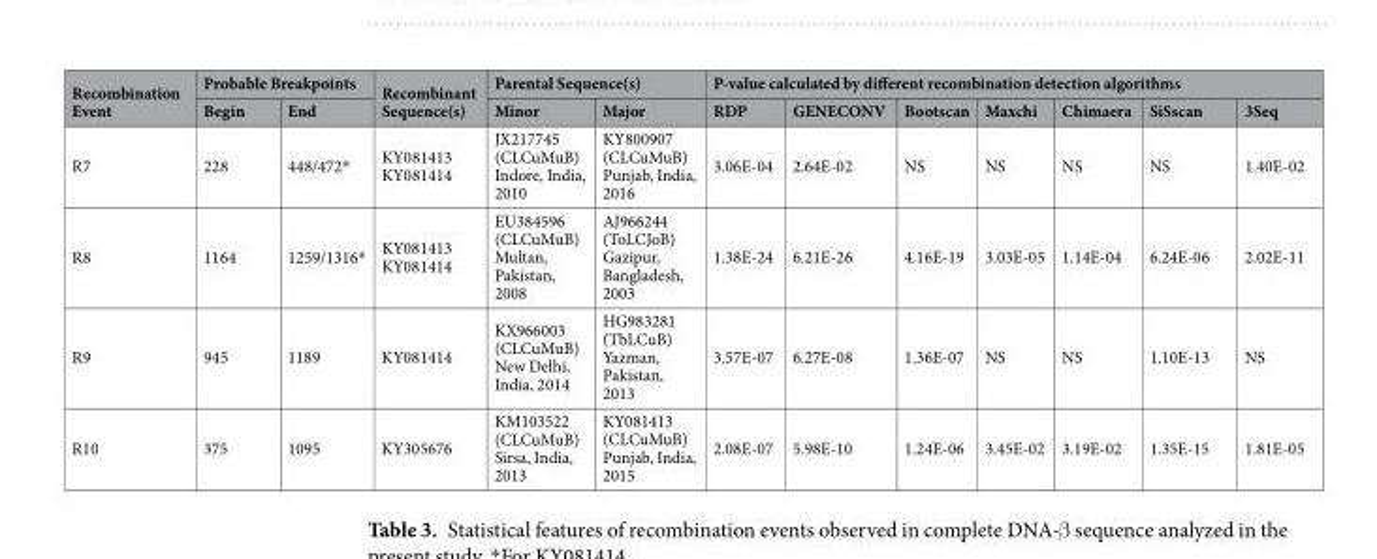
<table><thead><tr><td rowspan="2">Recombination Event</td><td colspan="2">Probable Breakpoints</td><td rowspan="2">Recombinant Sequence(s)</td><td colspan="2">Parental Sequence(s)</td><td colspan="7">P-value calculated by different recombination detection algorithms</td></tr><tr><td>Begin</td><td>End</td><td>Minor</td><td>Major</td><td>RDP</td><td>GENECONV</td><td>Bootscan</td><td>Maxchi</td><td>Chimaera</td><td>SiSscan</td><td>3Seq</td></tr></thead><tbody><tr><td>R7</td><td>228</td><td>448/472*</td><td>KY081413 KY081414</td><td>JX217745 (CLCuMuB) Indore, India, 2010</td><td>KY800907 (CLCuMuB) Punjab, India, 2016</td><td>3.06E-04</td><td>2.64E-02</td><td>NS</td><td>NS</td><td>NS</td><td>NS</td><td>1.40E-02</td></tr><tr><td>R8</td><td>1164</td><td>1259/1316*</td><td>KY081413 KY081414</td><td>EU384596 (CLCuMuB) Multan, Pakistan, 2008</td><td>AJ966244 (ToLCJoB) Gazipur, Bangladesh, 2003</td><td>1.38E-24</td><td>6.21E-26</td><td>4.16E-19</td><td>3.03E-05</td><td>1.14E-04</td><td>6.24E-06</td><td>2.02E-11</td></tr><tr><td>R9</td><td>945</td><td>1189</td><td>KY081414</td><td>KX966003 (CLCuMuB) New Delhi, India, 2014</td><td>HG983281 (TbLCuB) Yazman, Pakistan, 2013</td><td>3.57E-07</td><td>6.27E-08</td><td>1.36E-07</td><td>NS</td><td>NS</td><td>1.10E-13</td><td>NS</td></tr><tr><td>R10</td><td>375</td><td>1095</td><td>KY305676</td><td>KM103522 (CLCuMuB) Sirsa, India, 2013</td><td>KY081413 (CLCuMuB) Punjab, India, 2015</td><td>2.08E-07</td><td>5.98E-10</td><td>1.24E-06</td><td>3.45E-02</td><td>3.19E-02</td><td>1.35E-15</td><td>1.81E-05</td></tr></tbody></table>